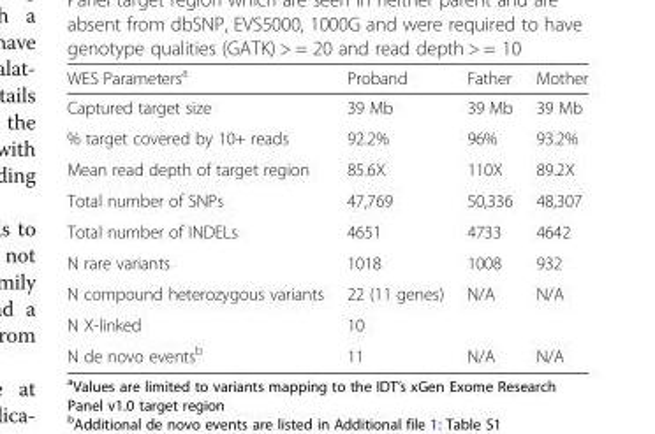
<table><thead><tr><td>WES Parameters<sup>a</sup></td><td>Proband</td><td>Father</td><td>Mother</td></tr></thead><tbody><tr><td>Captured target size</td><td>39 Mb</td><td>39 Mb</td><td>39 Mb</td></tr><tr><td>% target covered by 10+ reads</td><td>92.2%</td><td>96%</td><td>93.2%</td></tr><tr><td>Mean read depth of target region</td><td>85.6X</td><td>110X</td><td>89.2X</td></tr><tr><td>Total number of SNPs</td><td>47,769</td><td>50,336</td><td>48,307</td></tr><tr><td>Total number of INDELs</td><td>4651</td><td>4733</td><td>4642</td></tr><tr><td>N rare variants</td><td>1018</td><td>1008</td><td>932</td></tr><tr><td>N compound heterozygous variants</td><td>22 (11 genes)</td><td>N/A</td><td>N/A</td></tr><tr><td>N X-linked</td><td>10</td><td></td><td></td></tr><tr><td>N de novo events<sup>b</sup></td><td>11</td><td>N/A</td><td>N/A</td></tr></tbody></table>